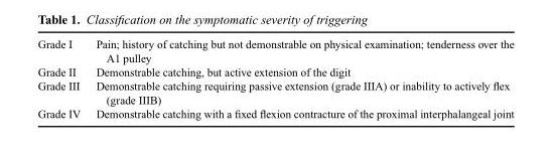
<table><tbody><tr><td>Grade I</td><td>Pain; history of catching but not demonstrable on physical examination; tenderness over the A1 pulley</td></tr><tr><td>Grade II</td><td>Demonstrable catching, but active extension of the digit</td></tr><tr><td>Grade III</td><td>Demonstrable catching requiring passive extension (grade IIIA) or inability to actively flex (grade IIIB)</td></tr><tr><td>Grade IV</td><td>Demonstrable catching with a fixed flexion contracture of the proximal interphalangeal joint</td></tr></tbody></table>